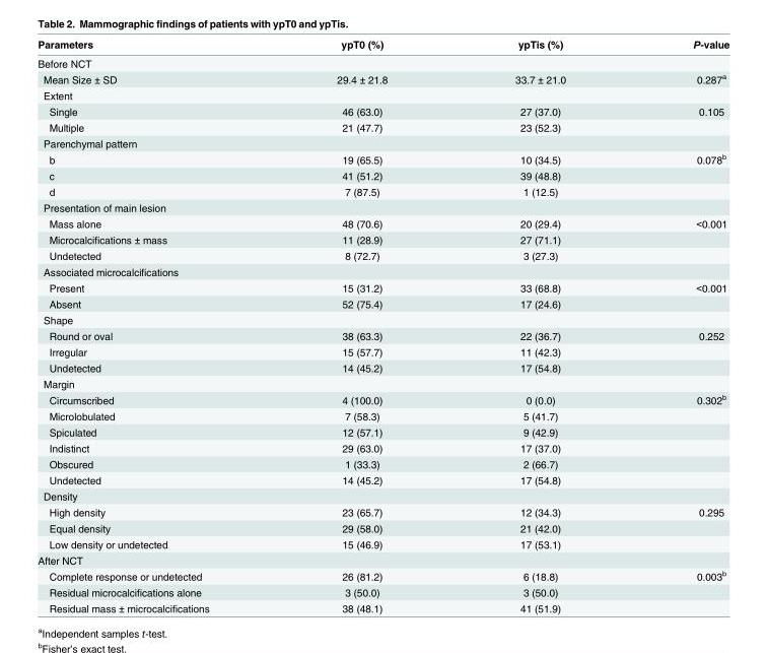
<table><thead><tr><td>Parameters</td><td>ypT0 (%)</td><td>ypTis (%)</td><td>P-value</td></tr></thead><tbody><tr><td colspan="4">Before NCT</td></tr><tr><td>Mean Size ± SD</td><td>29.4 ± 21.8</td><td>33.7 ± 21.0</td><td>0.287<sup>a</sup></td></tr><tr><td colspan="4">Extent</td></tr><tr><td>Single</td><td>46 (63.0)</td><td>27 (37.0)</td><td>0.105</td></tr><tr><td>Multiple</td><td>21 (47.7)</td><td>23 (52.3)</td><td></td></tr><tr><td colspan="4">Parenchymal pattern</td></tr><tr><td>b</td><td>19 (65.5)</td><td>10 (34.5)</td><td>0.078<sup>b</sup></td></tr><tr><td>c</td><td>41 (51.2)</td><td>39 (48.8)</td><td></td></tr><tr><td>d</td><td>7 (87.5)</td><td>1 (12.5)</td><td></td></tr><tr><td colspan="4">Presentation of main lesion</td></tr><tr><td>Mass alone</td><td>48 (70.6)</td><td>20 (29.4)</td><td>&lt;0.001</td></tr><tr><td>Microcalcifications ± mass</td><td>11 (28.9)</td><td>27 (71.1)</td><td></td></tr><tr><td>Undetected</td><td>8 (72.7)</td><td>3 (27.3)</td><td></td></tr><tr><td colspan="4">Associated microcalcifications</td></tr><tr><td>Present</td><td>15 (31.2)</td><td>33 (68.8)</td><td>&lt;0.001</td></tr><tr><td>Absent</td><td>52 (75.4)</td><td>17 (24.6)</td><td></td></tr><tr><td colspan="4">Shape</td></tr><tr><td>Round or oval</td><td>38 (63.3)</td><td>22 (36.7)</td><td>0.252</td></tr><tr><td>Irregular</td><td>15 (57.7)</td><td>11 (42.3)</td><td></td></tr><tr><td>Undetected</td><td>14 (45.2)</td><td>17 (54.8)</td><td></td></tr><tr><td colspan="4">Margin</td></tr><tr><td>Circumscribed</td><td>4 (100.0)</td><td>0 (0.0)</td><td>0.302<sup>b</sup></td></tr><tr><td>Microlobulated</td><td>7 (58.3)</td><td>5 (41.7)</td><td></td></tr><tr><td>Spiculated</td><td>12 (57.1)</td><td>9 (42.9)</td><td></td></tr><tr><td>Indistinct</td><td>29 (63.0)</td><td>17 (37.0)</td><td></td></tr><tr><td>Obscured</td><td>1 (33.3)</td><td>2 (66.7)</td><td></td></tr><tr><td>Undetected</td><td>14 (45.2)</td><td>17 (54.8)</td><td></td></tr><tr><td colspan="4">Density</td></tr><tr><td>High density</td><td>23 (65.7)</td><td>12 (34.3)</td><td>0.295</td></tr><tr><td>Equal density</td><td>29 (58.0)</td><td>21 (42.0)</td><td></td></tr><tr><td>Low density or undetected</td><td>15 (46.9)</td><td>17 (53.1)</td><td></td></tr><tr><td colspan="4">After NCT</td></tr><tr><td>Complete response or undetected</td><td>26 (81.2)</td><td>6 (18.8)</td><td>0.003<sup>b</sup></td></tr><tr><td>Residual microcalcifications alone</td><td>3 (50.0)</td><td>3 (50.0)</td><td></td></tr><tr><td>Residual mass ± microcalcifications</td><td>38 (48.1)</td><td>41 (51.9)</td><td></td></tr></tbody></table>